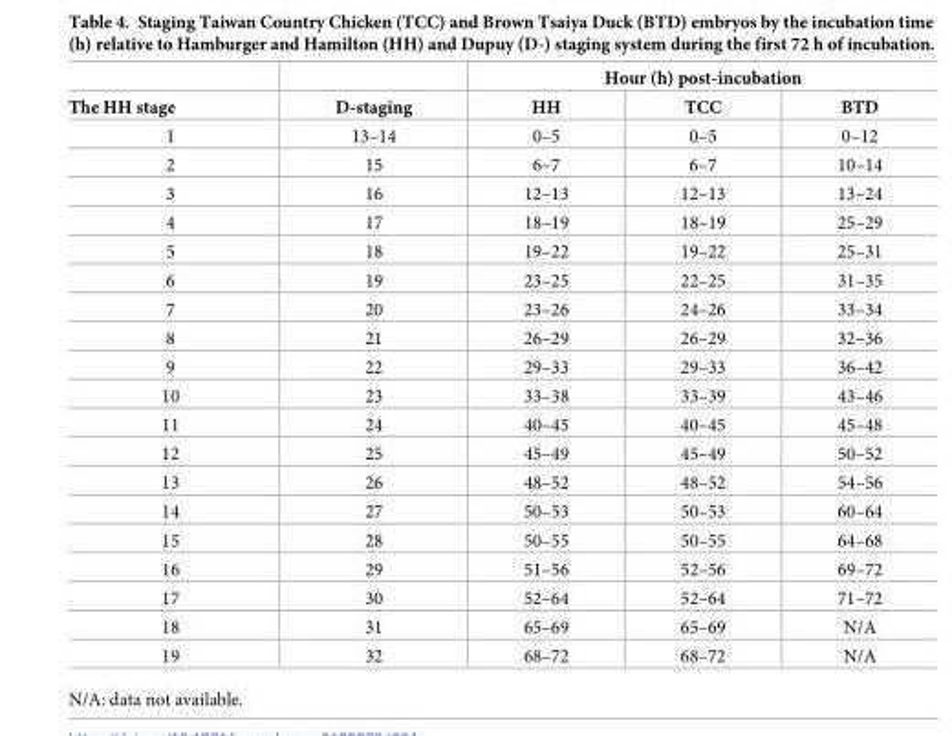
<table><thead><tr><td rowspan="2">The HH stage</td><td rowspan="2">D-staging</td><td colspan="3">Hour (h) post-incubation</td></tr><tr><td>HH</td><td>TCC</td><td>BTD</td></tr></thead><tbody><tr><td>1</td><td>13–14</td><td>0–5</td><td>0–5</td><td>0–12</td></tr><tr><td>2</td><td>15</td><td>6–7</td><td>6–7</td><td>10–14</td></tr><tr><td>3</td><td>16</td><td>12–13</td><td>12–13</td><td>13–24</td></tr><tr><td>4</td><td>17</td><td>18–19</td><td>18–19</td><td>25–29</td></tr><tr><td>5</td><td>18</td><td>19–22</td><td>19–22</td><td>25–31</td></tr><tr><td>6</td><td>19</td><td>23–25</td><td>22–25</td><td>31–35</td></tr><tr><td>7</td><td>20</td><td>23–26</td><td>24–26</td><td>33–34</td></tr><tr><td>8</td><td>21</td><td>26–29</td><td>26–29</td><td>32–36</td></tr><tr><td>9</td><td>22</td><td>29–33</td><td>29–33</td><td>36–42</td></tr><tr><td>10</td><td>23</td><td>33–38</td><td>33–39</td><td>43–46</td></tr><tr><td>11</td><td>24</td><td>40–45</td><td>40–45</td><td>45–48</td></tr><tr><td>12</td><td>25</td><td>45–49</td><td>45–49</td><td>50–52</td></tr><tr><td>13</td><td>26</td><td>48–52</td><td>48–52</td><td>54–56</td></tr><tr><td>14</td><td>27</td><td>50–53</td><td>50–53</td><td>60–64</td></tr><tr><td>15</td><td>28</td><td>50–55</td><td>50–55</td><td>64–68</td></tr><tr><td>16</td><td>29</td><td>51–56</td><td>52–56</td><td>69–72</td></tr><tr><td>17</td><td>30</td><td>52–64</td><td>52–64</td><td>71–72</td></tr><tr><td>18</td><td>31</td><td>65–69</td><td>65–69</td><td>N/A</td></tr><tr><td>19</td><td>32</td><td>68–72</td><td>68–72</td><td>N/A</td></tr></tbody></table>